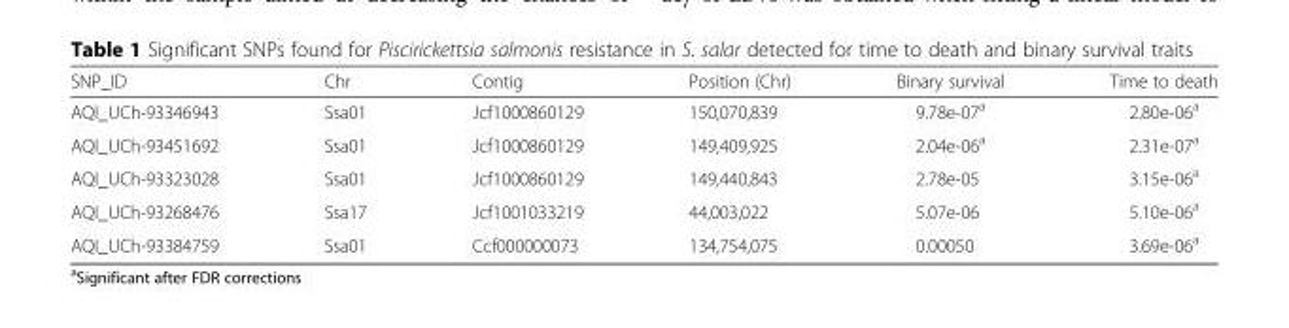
<table><thead><tr><td>SNP_ID</td><td>Chr</td><td>Contig</td><td>Position (Chr)</td><td>Binary survival</td><td>Time to death</td></tr></thead><tbody><tr><td>AQI_UCh-93346943</td><td>Ssa01</td><td>Jcf1000860129</td><td>150,070,839</td><td>9.78e-07<sup>a</sup></td><td>2.80e-06<sup>a</sup></td></tr><tr><td>AQI_UCh-93451692</td><td>Ssa01</td><td>Jcf1000860129</td><td>149,409,925</td><td>2.04e-06<sup>a</sup></td><td>2.31e-07<sup>a</sup></td></tr><tr><td>AQI_UCh-93323028</td><td>Ssa01</td><td>Jcf1000860129</td><td>149,440,843</td><td>2.78e-05</td><td>3.15e-06<sup>a</sup></td></tr><tr><td>AQI_UCh-93268476</td><td>Ssa17</td><td>Jcf1001033219</td><td>44,003,022</td><td>5.07e-06</td><td>5.10e-06<sup>a</sup></td></tr><tr><td>AQI_UCh-93384759</td><td>Ssa01</td><td>Ccf000000073</td><td>134,754,075</td><td>0.00050</td><td>3.69e-06<sup>a</sup></td></tr></tbody></table>